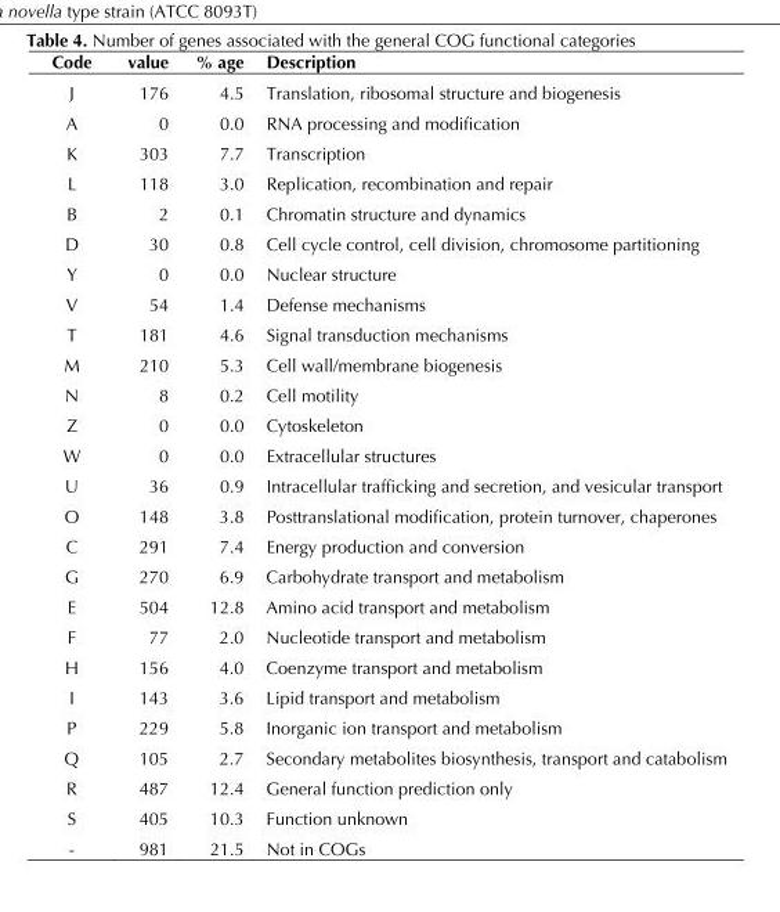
<table><thead><tr><td>Code</td><td>value</td><td>% age</td><td>Description</td></tr></thead><tbody><tr><td>J</td><td>176</td><td>4.5</td><td>Translation, ribosomal structure and biogenesis</td></tr><tr><td>A</td><td>0</td><td>0.0</td><td>RNA processing and modification</td></tr><tr><td>K</td><td>303</td><td>7.7</td><td>Transcription</td></tr><tr><td>L</td><td>118</td><td>3.0</td><td>Replication, recombination and repair</td></tr><tr><td>B</td><td>2</td><td>0.1</td><td>Chromatin structure and dynamics</td></tr><tr><td>D</td><td>30</td><td>0.8</td><td>Cell cycle control, cell division, chromosome partitioning</td></tr><tr><td>Y</td><td>0</td><td>0.0</td><td>Nuclear structure</td></tr><tr><td>V</td><td>54</td><td>1.4</td><td>Defense mechanisms</td></tr><tr><td>T</td><td>181</td><td>4.6</td><td>Signal transduction mechanisms</td></tr><tr><td>M</td><td>210</td><td>5.3</td><td>Cell wall/membrane biogenesis</td></tr><tr><td>N</td><td>8</td><td>0.2</td><td>Cell motility</td></tr><tr><td>Z</td><td>0</td><td>0.0</td><td>Cytoskeleton</td></tr><tr><td>W</td><td>0</td><td>0.0</td><td>Extracellular structures</td></tr><tr><td>U</td><td>36</td><td>0.9</td><td>Intracellular trafficking and secretion, and vesicular transport</td></tr><tr><td>O</td><td>148</td><td>3.8</td><td>Posttranslational modification, protein turnover, chaperones</td></tr><tr><td>C</td><td>291</td><td>7.4</td><td>Energy production and conversion</td></tr><tr><td>G</td><td>270</td><td>6.9</td><td>Carbohydrate transport and metabolism</td></tr><tr><td>E</td><td>504</td><td>12.8</td><td>Amino acid transport and metabolism</td></tr><tr><td>F</td><td>77</td><td>2.0</td><td>Nucleotide transport and metabolism</td></tr><tr><td>H</td><td>156</td><td>4.0</td><td>Coenzyme transport and metabolism</td></tr><tr><td>I</td><td>143</td><td>3.6</td><td>Lipid transport and metabolism</td></tr><tr><td>P</td><td>229</td><td>5.8</td><td>Inorganic ion transport and metabolism</td></tr><tr><td>Q</td><td>105</td><td>2.7</td><td>Secondary metabolites biosynthesis, transport and catabolism</td></tr><tr><td>R</td><td>487</td><td>12.4</td><td>General function prediction only</td></tr><tr><td>S</td><td>405</td><td>10.3</td><td>Function unknown</td></tr><tr><td>-</td><td>981</td><td>21.5</td><td>Not in COGs</td></tr></tbody></table>